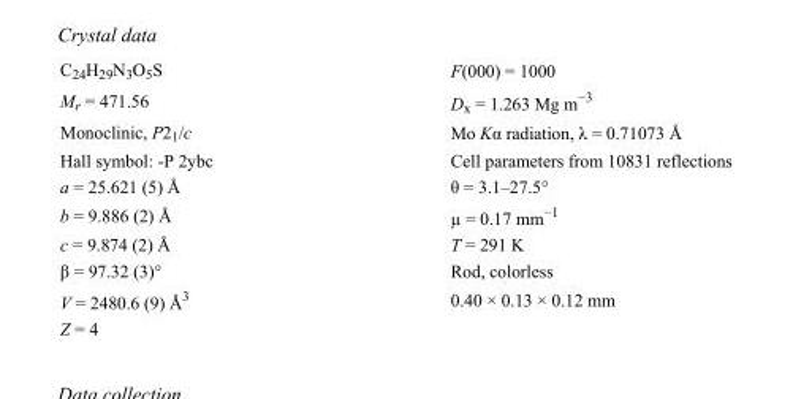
<table><tbody><tr><td>C<sub>24</sub>H<sub>29</sub>N<sub>3</sub>O<sub>5</sub>S</td><td>F(000) = 1000</td></tr><tr><td>M<sub>r</sub> = 471.56</td><td>D<sub>x</sub> = 1.263 Mg m<sup>−3</sup></td></tr><tr><td>Monoclinic, P2<sub>1</sub>/c</td><td>Mo Kα radiation, λ = 0.71073 Å</td></tr><tr><td>Hall symbol: -P 2ybc</td><td>Cell parameters from 10831 reflections</td></tr><tr><td>a = 25.621 (5) Å</td><td>θ = 3.1–27.5°</td></tr><tr><td>b = 9.886 (2) Å</td><td>µ = 0.17 mm<sup>−1</sup></td></tr><tr><td>c = 9.874 (2) Å</td><td>T = 291 K</td></tr><tr><td>β = 97.32 (3)°</td><td>Rod, colorless</td></tr><tr><td>V = 2480.6 (9) Å<sup>3</sup></td><td>0.40 × 0.13 × 0.12 mm</td></tr><tr><td>Z = 4</td><td></td></tr></tbody></table>